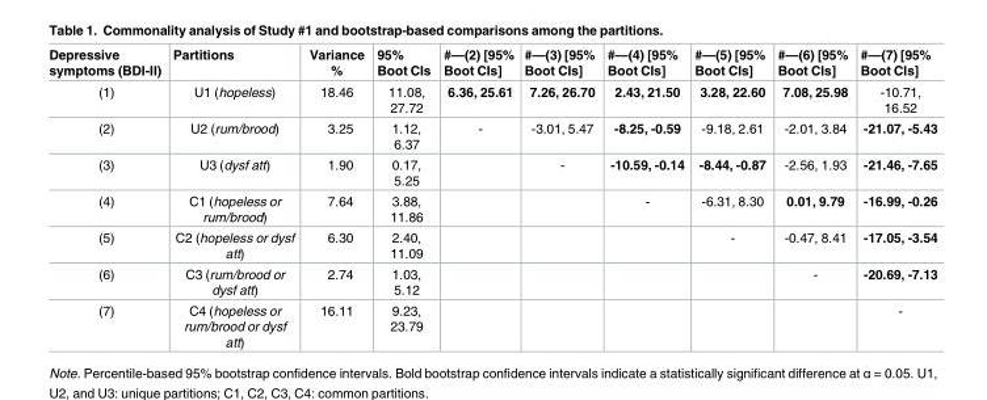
<table><thead><tr><td>Depressive symptoms (BDI-II)</td><td>Partitions</td><td>Variance %</td><td>95% Boot CIs</td><td>#—(2) [95% Boot CIs]</td><td>#—(3) [95% Boot CIs]</td><td>#—(4) [95% Boot CIs]</td><td>#—(5) [95% Boot CIs]</td><td>#—(6) [95% Boot CIs]</td><td>#—(7) [95% Boot CIs]</td></tr></thead><tbody><tr><td>(1)</td><td>U1 (hopeless)</td><td>18.46</td><td>11.08, 27.72</td><td>6.36, 25.61</td><td>7.26, 26.70</td><td>2.43, 21.50</td><td>3.28, 22.60</td><td>7.08, 25.98</td><td>-10.71, 16.52</td></tr><tr><td>(2)</td><td>U2 (rum/brood)</td><td>3.25</td><td>1.12, 6.37</td><td>-</td><td>-3.01, 5.47</td><td>-8.25, -0.59</td><td>-9.18, 2.61</td><td>-2.01, 3.84</td><td>-21.07, -5.43</td></tr><tr><td>(3)</td><td>U3 (dysf att)</td><td>1.90</td><td>0.17, 5.25</td><td></td><td>-</td><td>-10.59, -0.14</td><td>-8.44, -0.87</td><td>-2.56, 1.93</td><td>-21.46, -7.65</td></tr><tr><td>(4)</td><td>C1 (hopeless or rum/brood)</td><td>7.64</td><td>3.88, 11.86</td><td></td><td></td><td>-</td><td>-6.31, 8.30</td><td>0.01, 9.79</td><td>-16.99, -0.26</td></tr><tr><td>(5)</td><td>C2 (hopeless or dysf att)</td><td>6.30</td><td>2.40, 11.09</td><td></td><td></td><td></td><td>-</td><td>-0.47, 8.41</td><td>-17.05, -3.54</td></tr><tr><td>(6)</td><td>C3 (rum/brood or dysf att)</td><td>2.74</td><td>1.03, 5.12</td><td></td><td></td><td></td><td></td><td>-</td><td>-20.69, -7.13</td></tr><tr><td>(7)</td><td>C4 (hopeless or rum/brood or dysf att)</td><td>16.11</td><td>9.23, 23.79</td><td></td><td></td><td></td><td></td><td></td><td>-</td></tr></tbody></table>